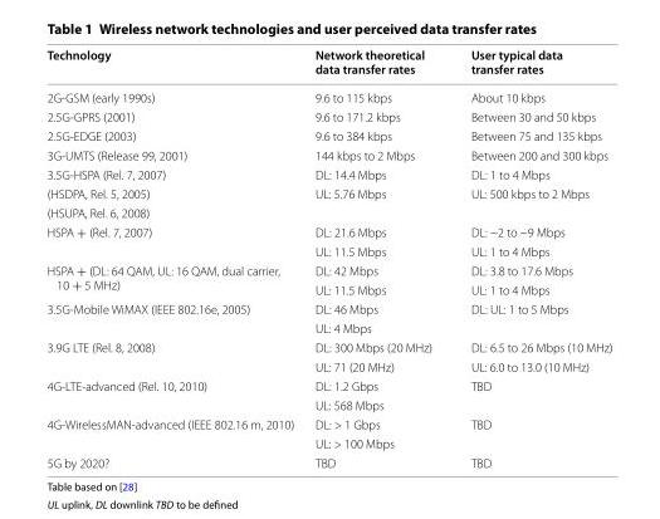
<table><thead><tr><td>Technology</td><td>Network theoretical data transfer rates</td><td>User typical data transfer rates</td></tr></thead><tbody><tr><td>2G-GSM (early 1990s)</td><td>9.6 to 115 kbps</td><td>About 10 kbps</td></tr><tr><td>2.5G-GPRS (2001)</td><td>9.6 to 171.2 kbps</td><td>Between 30 and 50 kbps</td></tr><tr><td>2.5G-EDGE (2003)</td><td>9.6 to 384 kbps</td><td>Between 75 and 135 kbps</td></tr><tr><td>3G-UMTS (Release 99, 2001)</td><td>144 kbps to 2 Mbps</td><td>Between 200 and 300 kbps</td></tr><tr><td>3.5G-HSPA (Rel. 7, 2007)</td><td>DL: 14.4 Mbps</td><td>DL: 1 to 4 Mbps</td></tr><tr><td>(HSDPA, Rel. 5, 2005)</td><td rowspan="2">UL: 5.76 Mbps</td><td rowspan="2">UL: 500 kbps to 2 Mbps</td></tr><tr><td>(HSUPA, Rel. 6, 2008)</td></tr><tr><td rowspan="2">HSPA + (Rel. 7, 2007)</td><td>DL: 21.6 Mbps</td><td>DL: ~2 to ~9 Mbps</td></tr><tr><td>UL: 11.5 Mbps</td><td>UL: 1 to 4 Mbps</td></tr><tr><td rowspan="2">HSPA + (DL: 64 QAM, UL: 16 QAM, dual carrier, 10 + 5 MHz)</td><td>DL: 42 Mbps</td><td>DL: 3.8 to 17.6 Mbps</td></tr><tr><td>UL: 11.5 Mbps</td><td>UL: 1 to 4 Mbps</td></tr><tr><td rowspan="2">3.5G-Mobile WiMAX (IEEE 802.16e, 2005)</td><td>DL: 46 Mbps</td><td>DL: UL: 1 to 5 Mbps</td></tr><tr><td>UL: 4 Mbps</td><td></td></tr><tr><td rowspan="2">3.9G LTE (Rel. 8, 2008)</td><td>DL: 300 Mbps (20 MHz)</td><td>DL: 6.5 to 26 Mbps (10 MHz)</td></tr><tr><td>UL: 71 (20 MHz)</td><td>UL: 6.0 to 13.0 (10 MHz)</td></tr><tr><td rowspan="2">4G-LTE-advanced (Rel. 10, 2010)</td><td>DL: 1.2 Gbps</td><td rowspan="2">TBD</td></tr><tr><td>UL: 568 Mbps</td></tr><tr><td rowspan="2">4G-WirelessMAN-advanced (IEEE 802.16 m, 2010)</td><td>DL: &gt; 1 Gbps</td><td rowspan="2">TBD</td></tr><tr><td>UL: &gt; 100 Mbps</td></tr><tr><td>5G by 2020?</td><td>TBD</td><td>TBD</td></tr></tbody></table>